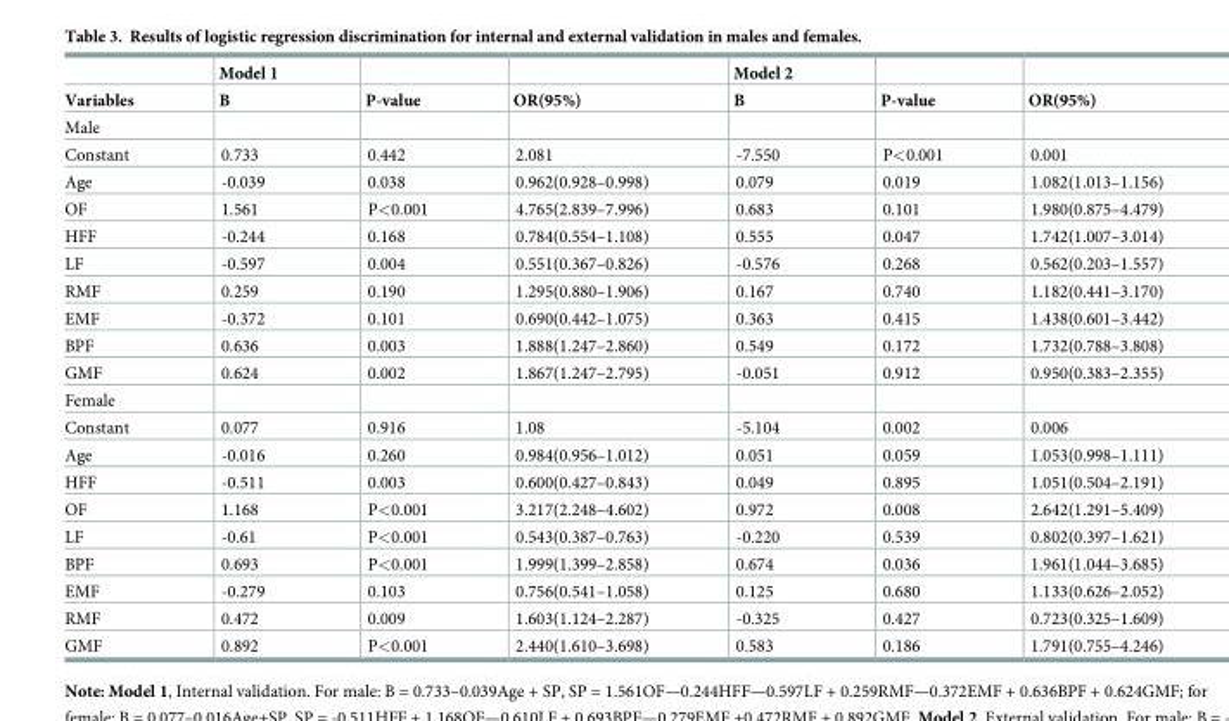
<table><thead><tr><td rowspan="2">Variables</td><td rowspan="2">Model 1 B</td><td rowspan="2">P-value</td><td rowspan="2">OR(95%)</td><td rowspan="2">Model 2 B</td><td rowspan="2">P-value</td><td rowspan="2">OR(95%)</td></tr><tr></tr></thead><tbody><tr><td colspan="7">Male</td></tr><tr><td>Constant</td><td>0.733</td><td>0.442</td><td>2.081</td><td>-7.550</td><td>P&lt;0.001</td><td>0.001</td></tr><tr><td>Age</td><td>-0.039</td><td>0.038</td><td>0.962(0.928–0.998)</td><td>0.079</td><td>0.019</td><td>1.082(1.013–1.156)</td></tr><tr><td>OF</td><td>1.561</td><td>P&lt;0.001</td><td>4.765(2.839–7.996)</td><td>0.683</td><td>0.101</td><td>1.980(0.875–4.479)</td></tr><tr><td>HFF</td><td>-0.244</td><td>0.168</td><td>0.784(0.554–1.108)</td><td>0.555</td><td>0.047</td><td>1.742(1.007–3.014)</td></tr><tr><td>LF</td><td>-0.597</td><td>0.004</td><td>0.551(0.367–0.826)</td><td>-0.576</td><td>0.268</td><td>0.562(0.203–1.557)</td></tr><tr><td>RMF</td><td>0.259</td><td>0.190</td><td>1.295(0.880–1.906)</td><td>0.167</td><td>0.740</td><td>1.182(0.441–3.170)</td></tr><tr><td>EMF</td><td>-0.372</td><td>0.101</td><td>0.690(0.442–1.075)</td><td>0.363</td><td>0.415</td><td>1.438(0.601–3.442)</td></tr><tr><td>BPF</td><td>0.636</td><td>0.003</td><td>1.888(1.247–2.860)</td><td>0.549</td><td>0.172</td><td>1.732(0.788–3.808)</td></tr><tr><td>GMF</td><td>0.624</td><td>0.002</td><td>1.867(1.247–2.795)</td><td>-0.051</td><td>0.912</td><td>0.950(0.383–2.355)</td></tr><tr><td colspan="7">Female</td></tr><tr><td>Constant</td><td>0.077</td><td>0.916</td><td>1.08</td><td>-5.104</td><td>0.002</td><td>0.006</td></tr><tr><td>Age</td><td>-0.016</td><td>0.260</td><td>0.984(0.956–1.012)</td><td>0.051</td><td>0.059</td><td>1.053(0.998–1.111)</td></tr><tr><td>HFF</td><td>-0.511</td><td>0.003</td><td>0.600(0.427–0.843)</td><td>0.049</td><td>0.895</td><td>1.051(0.504–2.191)</td></tr><tr><td>OF</td><td>1.168</td><td>P&lt;0.001</td><td>3.217(2.248–4.602)</td><td>0.972</td><td>0.008</td><td>2.642(1.291–5.409)</td></tr><tr><td>LF</td><td>-0.61</td><td>P&lt;0.001</td><td>0.543(0.387–0.763)</td><td>-0.220</td><td>0.539</td><td>0.802(0.397–1.621)</td></tr><tr><td>BPF</td><td>0.693</td><td>P&lt;0.001</td><td>1.999(1.399–2.858)</td><td>0.674</td><td>0.036</td><td>1.961(1.044–3.685)</td></tr><tr><td>EMF</td><td>-0.279</td><td>0.103</td><td>0.756(0.541–1.058)</td><td>0.125</td><td>0.680</td><td>1.133(0.626–2.052)</td></tr><tr><td>RMF</td><td>0.472</td><td>0.009</td><td>1.603(1.124–2.287)</td><td>-0.325</td><td>0.427</td><td>0.723(0.325–1.609)</td></tr><tr><td>GMF</td><td>0.892</td><td>P&lt;0.001</td><td>2.440(1.610–3.698)</td><td>0.583</td><td>0.186</td><td>1.791(0.755–4.246)</td></tr></tbody></table>